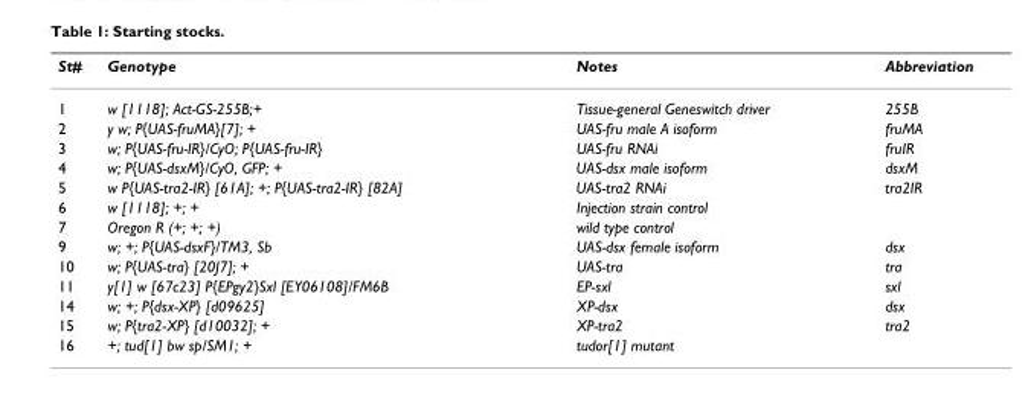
<table><thead><tr><td>St#</td><td>Genotype</td><td>Notes</td><td>Abbreviation</td></tr></thead><tbody><tr><td>1</td><td>w [1118]; Act-GS-255B;+</td><td>Tissue-general Geneswitch driver</td><td>255B</td></tr><tr><td>2</td><td>y w; P{UAS-fruMA}[7]; +</td><td>UAS-fru male A isoform</td><td>fruMA</td></tr><tr><td>3</td><td>w; P{UAS-fru-IR}/CyO; P{UAS-fru-IR}</td><td>UAS-fru RNAi</td><td>fruIR</td></tr><tr><td>4</td><td>w; P{UAS-dsxM}/CyO, GFP; +</td><td>UAS-dsx male isoform</td><td>dsxM</td></tr><tr><td>5</td><td>w P{UAS-tra2-IR} [61A]; +; P{UAS-tra2-IR} [82A]</td><td>UAS-tra2 RNAi</td><td>tra2IR</td></tr><tr><td>6</td><td>w [1118]; +; +</td><td>Injection strain control</td><td></td></tr><tr><td>7</td><td>Oregon R (+; +; +)</td><td>wild type control</td><td></td></tr><tr><td>9</td><td>w; +; P{UAS-dsxF}/TM3, Sb</td><td>UAS-dsx female isoform</td><td>dsx</td></tr><tr><td>10</td><td>w; P{UAS-tra} [20J7]; +</td><td>UAS-tra</td><td>tra</td></tr><tr><td>11</td><td>y[1] w [67c23] P{EPgy2}Sxl [EY06108]/FM6B</td><td>EP-sxl</td><td>sxl</td></tr><tr><td>14</td><td>w; +; P{dsx-XP} [d09625]</td><td>XP-dsx</td><td>dsx</td></tr><tr><td>15</td><td>w; P{tra2-XP} [d10032]; +</td><td>XP-tra2</td><td>tra2</td></tr><tr><td>16</td><td>+; tud[1] bw sp/SM1; +</td><td>tudor[1] mutant</td><td></td></tr></tbody></table>